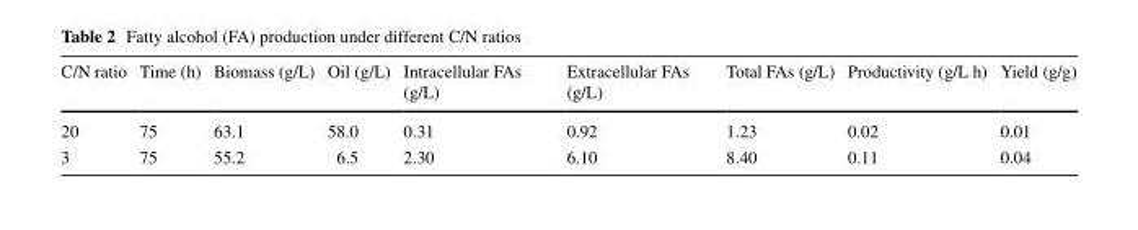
<table><thead><tr><td>C/N ratio</td><td>Time (h)</td><td>Biomass (g/L)</td><td>Oil (g/L)</td><td>Intracellular FAs (g/L)</td><td>Extracellular FAs (g/L)</td><td>Total FAs (g/L)</td><td>Productivity (g/L h)</td><td>Yield (g/g)</td></tr></thead><tbody><tr><td>20</td><td>75</td><td>63.1</td><td>58.0</td><td>0.31</td><td>0.92</td><td>1.23</td><td>0.02</td><td>0.01</td></tr><tr><td>3</td><td>75</td><td>55.2</td><td>6.5</td><td>2.30</td><td>6.10</td><td>8.40</td><td>0.11</td><td>0.04</td></tr></tbody></table>